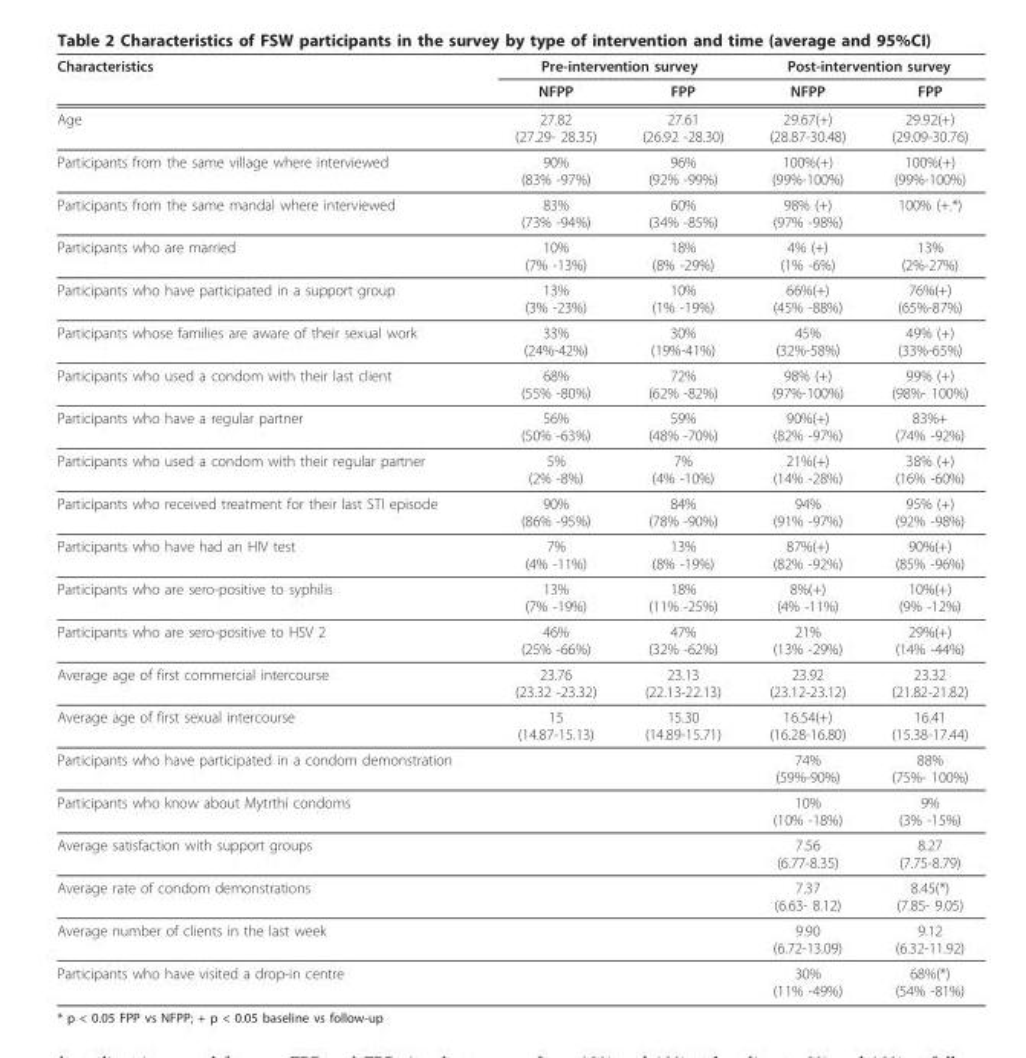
<table><thead><tr><td rowspan="2">Characteristics</td><td colspan="2">Pre-intervention survey</td><td colspan="2">Post-intervention survey</td></tr><tr><td>NFPP</td><td>FPP</td><td>NFPP</td><td>FPP</td></tr></thead><tbody><tr><td>Age</td><td>27.82 (27.29- 28.35)</td><td>27.61 (26.92 -28.30)</td><td>29.67(+) (28.87-30.48)</td><td>29.92(+) (29.09-30.76)</td></tr><tr><td>Participants from the same village where interviewed</td><td>90% (83% -97%)</td><td>96% (92% -99%)</td><td>100%(+) (99%-100%)</td><td>100%(+) (99%-100%)</td></tr><tr><td>Participants from the same mandal where interviewed</td><td>83% (73% -94%)</td><td>60% (34% -85%)</td><td>98% (+) (97% -98%)</td><td>100% (+.*)</td></tr><tr><td>Participants who are married</td><td>10% (7% -13%)</td><td>18% (8% -29%)</td><td>4% (+) (1% -6%)</td><td>13% (2%-27%)</td></tr><tr><td>Participants who have participated in a support group</td><td>13% (3% -23%)</td><td>10% (1% -19%)</td><td>66%(+) (45% -88%)</td><td>76%(+) (65%-87%)</td></tr><tr><td>Participants whose families are aware of their sexual work</td><td>33% (24%-42%)</td><td>30% (19%-41%)</td><td>45% (32%-58%)</td><td>49% (+) (33%-65%)</td></tr><tr><td>Participants who used a condom with their last client</td><td>68% (55% -80%)</td><td>72% (62% -82%)</td><td>98% (+) (97%-100%)</td><td>99% (+) (98%- 100%)</td></tr><tr><td>Participants who have a regular partner</td><td>56% (50% -63%)</td><td>59% (48% -70%)</td><td>90%(+) (82% -97%)</td><td>83%+ (74% -92%)</td></tr><tr><td>Participants who used a condom with their regular partner</td><td>5% (2% -8%)</td><td>7% (4% -10%)</td><td>21%(+) (14% -28%)</td><td>38% (+) (16% -60%)</td></tr><tr><td>Participants who received treatment for their last STI episode</td><td>90% (86% -95%)</td><td>84% (78% -90%)</td><td>94% (91% -97%)</td><td>95% (+) (92% -98%)</td></tr><tr><td>Participants who have had an HIV test</td><td>7% (4% -11%)</td><td>13% (8% -19%)</td><td>87%(+) (82% -92%)</td><td>90%(+) (85% -96%)</td></tr><tr><td>Participants who are sero-positive to syphilis</td><td>13% (7% -19%)</td><td>18% (11% -25%)</td><td>8%(+) (4% -11%)</td><td>10%(+) (9% -12%)</td></tr><tr><td>Participants who are sero-positive to HSV 2</td><td>46% (25% -66%)</td><td>47% (32% -62%)</td><td>21% (13% -29%)</td><td>29%(+) (14% -44%)</td></tr><tr><td>Average age of first commercial intercourse</td><td>23.76 (23.32 -23.32)</td><td>23.13 (22.13-22.13)</td><td>23.92 (23.12-23.12)</td><td>23.32 (21.82-21.82)</td></tr><tr><td>Average age of first sexual intercourse</td><td>15 (14.87-15.13)</td><td>15.30 (14.89-15.71)</td><td>16.54(+) (16.28-16.80)</td><td>16.41 (15.38-17.44)</td></tr><tr><td>Participants who have participated in a condom demonstration</td><td></td><td></td><td>74% (59%-90%)</td><td>88% (75%- 100%)</td></tr><tr><td>Participants who know about Mytrthi condoms</td><td></td><td></td><td>10% (10% -18%)</td><td>9% (3% -15%)</td></tr><tr><td>Average satisfaction with support groups</td><td></td><td></td><td>7.56 (6.77-8.35)</td><td>8.27 (7.75-8.79)</td></tr><tr><td>Average rate of condom demonstrations</td><td></td><td></td><td>7.37 (6.63- 8.12)</td><td>8.45(*) (7.85- 9.05)</td></tr><tr><td>Average number of clients in the last week</td><td></td><td></td><td>9.90 (6.72-13.09)</td><td>9.12 (6.32-11.92)</td></tr><tr><td>Participants who have visited a drop-in centre</td><td></td><td></td><td>30% (11% -49%)</td><td>68%(*) (54% -81%)</td></tr></tbody></table>